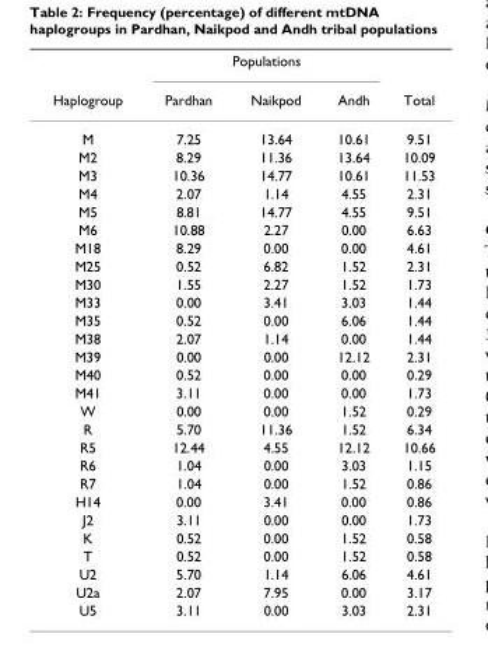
<table><thead><tr><td rowspan="2">Haplogroup</td><td colspan="3">Populations</td><td rowspan="2">Total</td></tr><tr><td>Pardhan</td><td>Naikpod</td><td>Andh</td></tr></thead><tbody><tr><td>M</td><td>7.25</td><td>13.64</td><td>10.61</td><td>9.51</td></tr><tr><td>M2</td><td>8.29</td><td>11.36</td><td>13.64</td><td>10.09</td></tr><tr><td>M3</td><td>10.36</td><td>14.77</td><td>10.61</td><td>11.53</td></tr><tr><td>M4</td><td>2.07</td><td>1.14</td><td>4.55</td><td>2.31</td></tr><tr><td>M5</td><td>8.81</td><td>14.77</td><td>4.55</td><td>9.51</td></tr><tr><td>M6</td><td>10.88</td><td>2.27</td><td>0.00</td><td>6.63</td></tr><tr><td>M18</td><td>8.29</td><td>0.00</td><td>0.00</td><td>4.61</td></tr><tr><td>M25</td><td>0.52</td><td>6.82</td><td>1.52</td><td>2.31</td></tr><tr><td>M30</td><td>1.55</td><td>2.27</td><td>1.52</td><td>1.73</td></tr><tr><td>M33</td><td>0.00</td><td>3.41</td><td>3.03</td><td>1.44</td></tr><tr><td>M35</td><td>0.52</td><td>0.00</td><td>6.06</td><td>1.44</td></tr><tr><td>M38</td><td>2.07</td><td>1.14</td><td>0.00</td><td>1.44</td></tr><tr><td>M39</td><td>0.00</td><td>0.00</td><td>12.12</td><td>2.31</td></tr><tr><td>M40</td><td>0.52</td><td>0.00</td><td>0.00</td><td>0.29</td></tr><tr><td>M41</td><td>3.11</td><td>0.00</td><td>0.00</td><td>1.73</td></tr><tr><td>W</td><td>0.00</td><td>0.00</td><td>1.52</td><td>0.29</td></tr><tr><td>R</td><td>5.70</td><td>11.36</td><td>1.52</td><td>6.34</td></tr><tr><td>R5</td><td>12.44</td><td>4.55</td><td>12.12</td><td>10.66</td></tr><tr><td>R6</td><td>1.04</td><td>0.00</td><td>3.03</td><td>1.15</td></tr><tr><td>R7</td><td>1.04</td><td>0.00</td><td>1.52</td><td>0.86</td></tr><tr><td>H14</td><td>0.00</td><td>3.41</td><td>0.00</td><td>0.86</td></tr><tr><td>J2</td><td>3.11</td><td>0.00</td><td>0.00</td><td>1.73</td></tr><tr><td>K</td><td>0.52</td><td>0.00</td><td>1.52</td><td>0.58</td></tr><tr><td>T</td><td>0.52</td><td>0.00</td><td>1.52</td><td>0.58</td></tr><tr><td>U2</td><td>5.70</td><td>1.14</td><td>6.06</td><td>4.61</td></tr><tr><td>U2a</td><td>2.07</td><td>7.95</td><td>0.00</td><td>3.17</td></tr><tr><td>U5</td><td>3.11</td><td>0.00</td><td>3.03</td><td>2.31</td></tr></tbody></table>